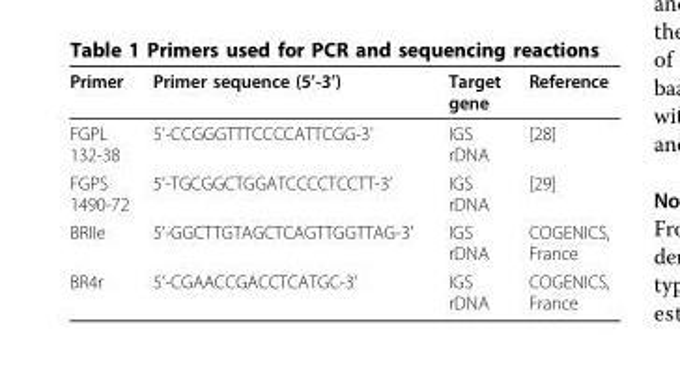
<table><thead><tr><td>Primer</td><td>Primer sequence (5’-3’)</td><td>Target gene</td><td>Reference</td></tr></thead><tbody><tr><td>FGPL 132-38</td><td>5’-CCGGGTTTCCCCATTCGG-3’</td><td>IGS rDNA</td><td>[28]</td></tr><tr><td>FGPS 1490-72</td><td>5’-TGCGGCTGGATCCCCTCCTT-3’</td><td>IGS rDNA</td><td>[29]</td></tr><tr><td>BRIIe</td><td>5’-GGCTTGTAGCTCAGTTGGTTAG-3’</td><td>IGS rDNA</td><td>COGENICS, France</td></tr><tr><td>BR4r</td><td>5’-CGAACCGACCTCATGC-3’</td><td>IGS rDNA</td><td>COGENICS, France</td></tr></tbody></table>